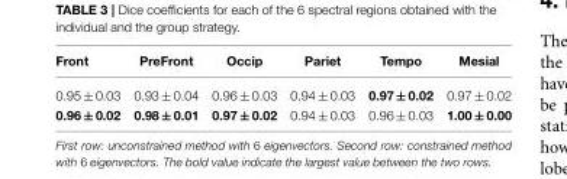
<table><thead><tr><td>Front</td><td>PreFront</td><td>Occip</td><td>Pariet</td><td>Tempo</td><td>Mesial</td></tr></thead><tbody><tr><td>0.95 ± 0.03</td><td>0.93 ± 0.04</td><td>0.96 ± 0.03</td><td>0.94 ± 0.03</td><td>0.97 ± 0.02</td><td>0.97 ± 0.02</td></tr><tr><td>0.96 ± 0.02</td><td>0.98 ± 0.01</td><td>0.97 ± 0.02</td><td>0.94 ± 0.03</td><td>0.96 ± 0.03</td><td>1.00 ± 0.00</td></tr></tbody></table>